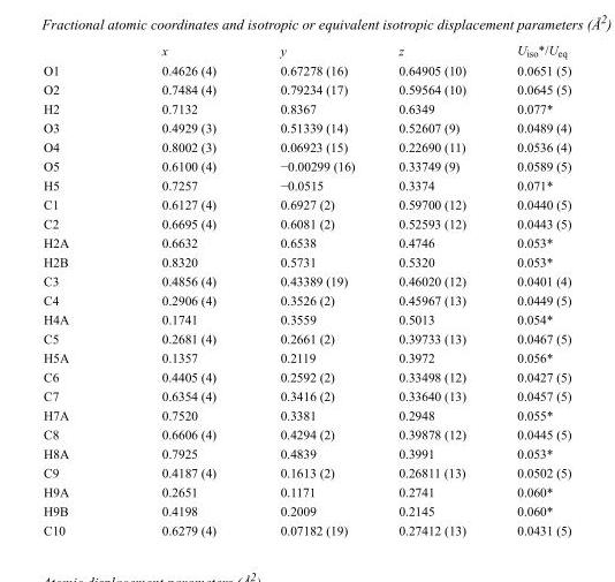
<table><thead><tr><td></td><td>x</td><td>y</td><td>z</td><td>U<sub>iso</sub>*/U<sub>eq</sub></td></tr></thead><tbody><tr><td>O1</td><td>0.4626 (4)</td><td>0.67278 (16)</td><td>0.64905 (10)</td><td>0.0651 (5)</td></tr><tr><td>O2</td><td>0.7484 (4)</td><td>0.79234 (17)</td><td>0.59564 (10)</td><td>0.0645 (5)</td></tr><tr><td>H2</td><td>0.7132</td><td>0.8367</td><td>0.6349</td><td>0.077*</td></tr><tr><td>O3</td><td>0.4929 (3)</td><td>0.51339 (14)</td><td>0.52607 (9)</td><td>0.0489 (4)</td></tr><tr><td>O4</td><td>0.8002 (3)</td><td>0.06923 (15)</td><td>0.22690 (11)</td><td>0.0536 (4)</td></tr><tr><td>O5</td><td>0.6100 (4)</td><td>−0.00299 (16)</td><td>0.33749 (9)</td><td>0.0589 (5)</td></tr><tr><td>H5</td><td>0.7257</td><td>−0.0515</td><td>0.3374</td><td>0.071*</td></tr><tr><td>C1</td><td>0.6127 (4)</td><td>0.6927 (2)</td><td>0.59700 (12)</td><td>0.0440 (5)</td></tr><tr><td>C2</td><td>0.6695 (4)</td><td>0.6081 (2)</td><td>0.52593 (12)</td><td>0.0443 (5)</td></tr><tr><td>H2A</td><td>0.6632</td><td>0.6538</td><td>0.4746</td><td>0.053*</td></tr><tr><td>H2B</td><td>0.8320</td><td>0.5731</td><td>0.5320</td><td>0.053*</td></tr><tr><td>C3</td><td>0.4856 (4)</td><td>0.43389 (19)</td><td>0.46020 (12)</td><td>0.0401 (4)</td></tr><tr><td>C4</td><td>0.2906 (4)</td><td>0.3526 (2)</td><td>0.45967 (13)</td><td>0.0449 (5)</td></tr><tr><td>H4A</td><td>0.1741</td><td>0.3559</td><td>0.5013</td><td>0.054*</td></tr><tr><td>C5</td><td>0.2681 (4)</td><td>0.2661 (2)</td><td>0.39733 (13)</td><td>0.0467 (5)</td></tr><tr><td>H5A</td><td>0.1357</td><td>0.2119</td><td>0.3972</td><td>0.056*</td></tr><tr><td>C6</td><td>0.4405 (4)</td><td>0.2592 (2)</td><td>0.33498 (12)</td><td>0.0427 (5)</td></tr><tr><td>C7</td><td>0.6354 (4)</td><td>0.3416 (2)</td><td>0.33640 (13)</td><td>0.0457 (5)</td></tr><tr><td>H7A</td><td>0.7520</td><td>0.3381</td><td>0.2948</td><td>0.055*</td></tr><tr><td>C8</td><td>0.6606 (4)</td><td>0.4294 (2)</td><td>0.39878 (12)</td><td>0.0445 (5)</td></tr><tr><td>H8A</td><td>0.7925</td><td>0.4839</td><td>0.3991</td><td>0.053*</td></tr><tr><td>C9</td><td>0.4187 (4)</td><td>0.1613 (2)</td><td>0.26811 (13)</td><td>0.0502 (5)</td></tr><tr><td>H9A</td><td>0.2651</td><td>0.1171</td><td>0.2741</td><td>0.060*</td></tr><tr><td>H9B</td><td>0.4198</td><td>0.2009</td><td>0.2145</td><td>0.060*</td></tr><tr><td>C10</td><td>0.6279 (4)</td><td>0.07182 (19)</td><td>0.27412 (13)</td><td>0.0431 (5)</td></tr></tbody></table>